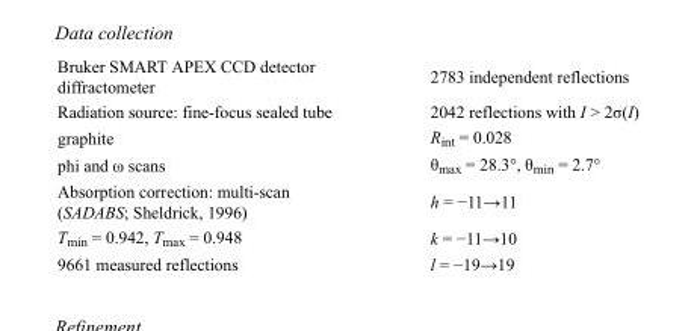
<table><tbody><tr><td>Bruker SMART APEX CCD detector diffractometer</td><td>2783 independent reflections</td></tr><tr><td>Radiation source: fine-focus sealed tube</td><td>2042 reflections with I &gt; 2σ(I)</td></tr><tr><td>graphite</td><td>R<sub>int</sub> = 0.028</td></tr><tr><td>phi and ω scans</td><td>θ<sub>max</sub> = 28.3°, θ<sub>min</sub> = 2.7°</td></tr><tr><td>Absorption correction: multi-scan (SADABS; Sheldrick, 1996)</td><td>h = −11→11</td></tr><tr><td>T<sub>min</sub> = 0.942, T<sub>max</sub> = 0.948</td><td>k = −11→10</td></tr><tr><td>9661 measured reflections</td><td>l = −19→19</td></tr></tbody></table>